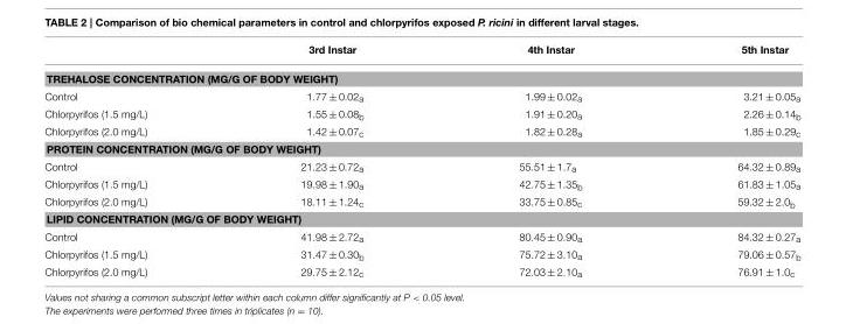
<table><thead><tr><td></td><td>3rd Instar</td><td>4th Instar</td><td>5th Instar</td></tr></thead><tbody><tr><td colspan="4">TREHALOSE CONCENTRATION (MG/G OF BODY WEIGHT)</td></tr><tr><td>Control</td><td>1.77 ± 0.02<sub>a</sub></td><td>1.99 ± 0.02<sub>a</sub></td><td>3.21 ± 0.05<sub>a</sub></td></tr><tr><td>Chlorpyrifos (1.5 mg/L)</td><td>1.55 ± 0.08<sub>b</sub></td><td>1.91 ± 0.20<sub>a</sub></td><td>2.26 ± 0.14<sub>b</sub></td></tr><tr><td>Chlorpyrifos (2.0 mg/L)</td><td>1.42 ± 0.07<sub>c</sub></td><td>1.82 ± 0.28<sub>a</sub></td><td>1.85 ± 0.29<sub>c</sub></td></tr><tr><td colspan="4">PROTEIN CONCENTRATION (MG/G OF BODY WEIGHT)</td></tr><tr><td>Control</td><td>21.23 ± 0.72<sub>a</sub></td><td>55.51 ± 1.7<sub>a</sub></td><td>64.32 ± 0.89<sub>a</sub></td></tr><tr><td>Chlorpyrifos (1.5 mg/L)</td><td>19.98 ± 1.90<sub>a</sub></td><td>42.75 ± 1.35<sub>b</sub></td><td>61.83 ± 1.05<sub>a</sub></td></tr><tr><td>Chlorpyrifos (2.0 mg/L)</td><td>18.11 ± 1.24<sub>c</sub></td><td>33.75 ± 0.85<sub>c</sub></td><td>59.32 ± 2.0<sub>b</sub></td></tr><tr><td colspan="4">LIPID CONCENTRATION (MG/G OF BODY WEIGHT)</td></tr><tr><td>Control</td><td>41.98 ± 2.72<sub>a</sub></td><td>80.45 ± 0.90<sub>a</sub></td><td>84.32 ± 0.27<sub>a</sub></td></tr><tr><td>Chlorpyrifos (1.5 mg/L)</td><td>31.47 ± 0.30<sub>b</sub></td><td>75.72 ± 3.10<sub>a</sub></td><td>79.06 ± 0.57<sub>b</sub></td></tr><tr><td>Chlorpyrifos (2.0 mg/L)</td><td>29.75 ± 2.12<sub>c</sub></td><td>72.03 ± 2.10<sub>a</sub></td><td>76.91 ± 1.0<sub>c</sub></td></tr></tbody></table>